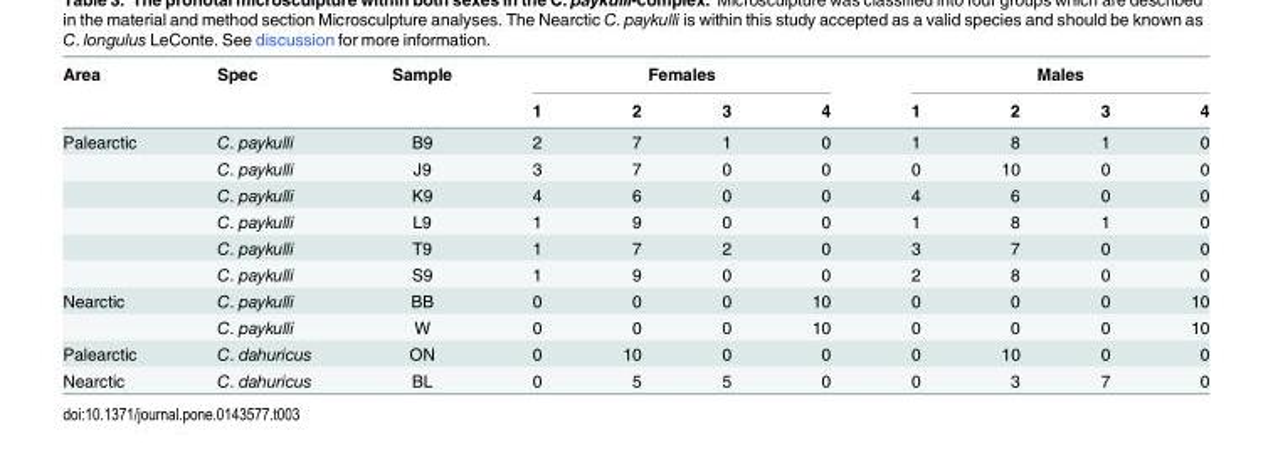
<table><thead><tr><td rowspan="2">Area</td><td rowspan="2">Spec</td><td rowspan="2">Sample</td><td colspan="4">Females</td><td colspan="4">Males</td></tr><tr><td>1</td><td>2</td><td>3</td><td>4</td><td>1</td><td>2</td><td>3</td><td>4</td></tr></thead><tbody><tr><td rowspan="6">Palearctic</td><td>C. paykulli</td><td>B9</td><td>2</td><td>7</td><td>1</td><td>0</td><td>1</td><td>8</td><td>1</td><td>0</td></tr><tr><td>C. paykulli</td><td>J9</td><td>3</td><td>7</td><td>0</td><td>0</td><td>0</td><td>10</td><td>0</td><td>0</td></tr><tr><td>C. paykulli</td><td>K9</td><td>4</td><td>6</td><td>0</td><td>0</td><td>4</td><td>6</td><td>0</td><td>0</td></tr><tr><td>C. paykulli</td><td>L9</td><td>1</td><td>9</td><td>0</td><td>0</td><td>1</td><td>8</td><td>1</td><td>0</td></tr><tr><td>C. paykulli</td><td>T9</td><td>1</td><td>7</td><td>2</td><td>0</td><td>3</td><td>7</td><td>0</td><td>0</td></tr><tr><td>C. paykulli</td><td>S9</td><td>1</td><td>9</td><td>0</td><td>0</td><td>2</td><td>8</td><td>0</td><td>0</td></tr><tr><td rowspan="2">Nearctic</td><td>C. paykulli</td><td>BB</td><td>0</td><td>0</td><td>0</td><td>10</td><td>0</td><td>0</td><td>0</td><td>10</td></tr><tr><td>C. paykulli</td><td>W</td><td>0</td><td>0</td><td>0</td><td>10</td><td>0</td><td>0</td><td>0</td><td>10</td></tr><tr><td>Palearctic</td><td>C. dahuricus</td><td>ON</td><td>0</td><td>10</td><td>0</td><td>0</td><td>0</td><td>10</td><td>0</td><td>0</td></tr><tr><td>Nearctic</td><td>C. dahuricus</td><td>BL</td><td>0</td><td>5</td><td>5</td><td>0</td><td>0</td><td>3</td><td>7</td><td>0</td></tr></tbody></table>